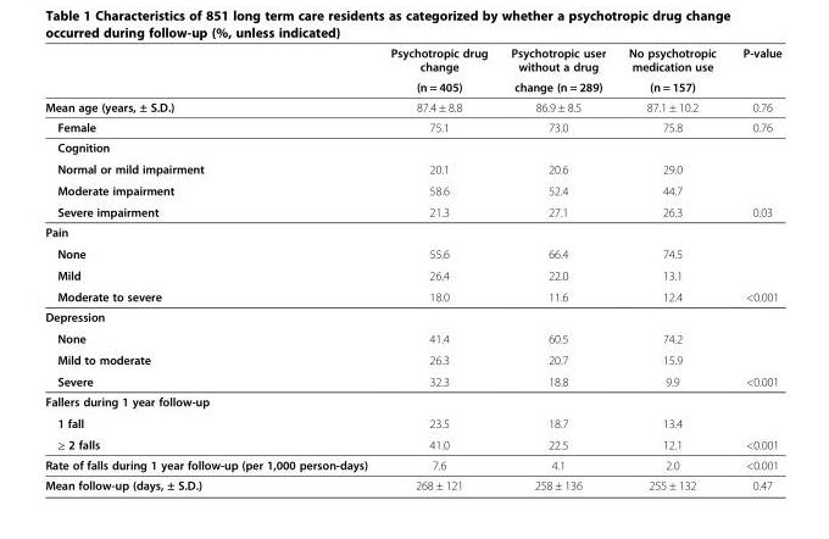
<table><thead><tr><td rowspan="2"></td><td rowspan="2">Psychotropic drug change (n = 405)</td><td rowspan="2">Psychotropic user without a drug change (n = 289)</td><td rowspan="2">No psychotropic medication use (n = 157)</td><td rowspan="2">P-value</td></tr><tr></tr></thead><tbody><tr><td>Mean age (years, ± S.D.)</td><td>87.4 ± 8.8</td><td>86.9 ± 8.5</td><td>87.1 ± 10.2</td><td>0.76</td></tr><tr><td>Female</td><td>75.1</td><td>73.0</td><td>75.8</td><td>0.76</td></tr><tr><td colspan="5">Cognition</td></tr><tr><td>Normal or mild impairment</td><td>20.1</td><td>20.6</td><td>29.0</td><td></td></tr><tr><td>Moderate impairment</td><td>58.6</td><td>52.4</td><td>44.7</td><td></td></tr><tr><td>Severe impairment</td><td>21.3</td><td>27.1</td><td>26.3</td><td>0.03</td></tr><tr><td colspan="5">Pain</td></tr><tr><td>None</td><td>55.6</td><td>66.4</td><td>74.5</td><td></td></tr><tr><td>Mild</td><td>26.4</td><td>22.0</td><td>13.1</td><td></td></tr><tr><td>Moderate to severe</td><td>18.0</td><td>11.6</td><td>12.4</td><td>&lt;0.001</td></tr><tr><td colspan="5">Depression</td></tr><tr><td>None</td><td>41.4</td><td>60.5</td><td>74.2</td><td></td></tr><tr><td>Mild to moderate</td><td>26.3</td><td>20.7</td><td>15.9</td><td></td></tr><tr><td>Severe</td><td>32.3</td><td>18.8</td><td>9.9</td><td>&lt;0.001</td></tr><tr><td colspan="5">Fallers during 1 year follow-up</td></tr><tr><td>1 fall</td><td>23.5</td><td>18.7</td><td>13.4</td><td></td></tr><tr><td>≥ 2 falls</td><td>41.0</td><td>22.5</td><td>12.1</td><td>&lt;0.001</td></tr><tr><td>Rate of falls during 1 year follow-up (per 1,000 person-days)</td><td>7.6</td><td>4.1</td><td>2.0</td><td>&lt;0.001</td></tr><tr><td>Mean follow-up (days, ± S.D.)</td><td>268 ± 121</td><td>258 ± 136</td><td>255 ± 132</td><td>0.47</td></tr></tbody></table>